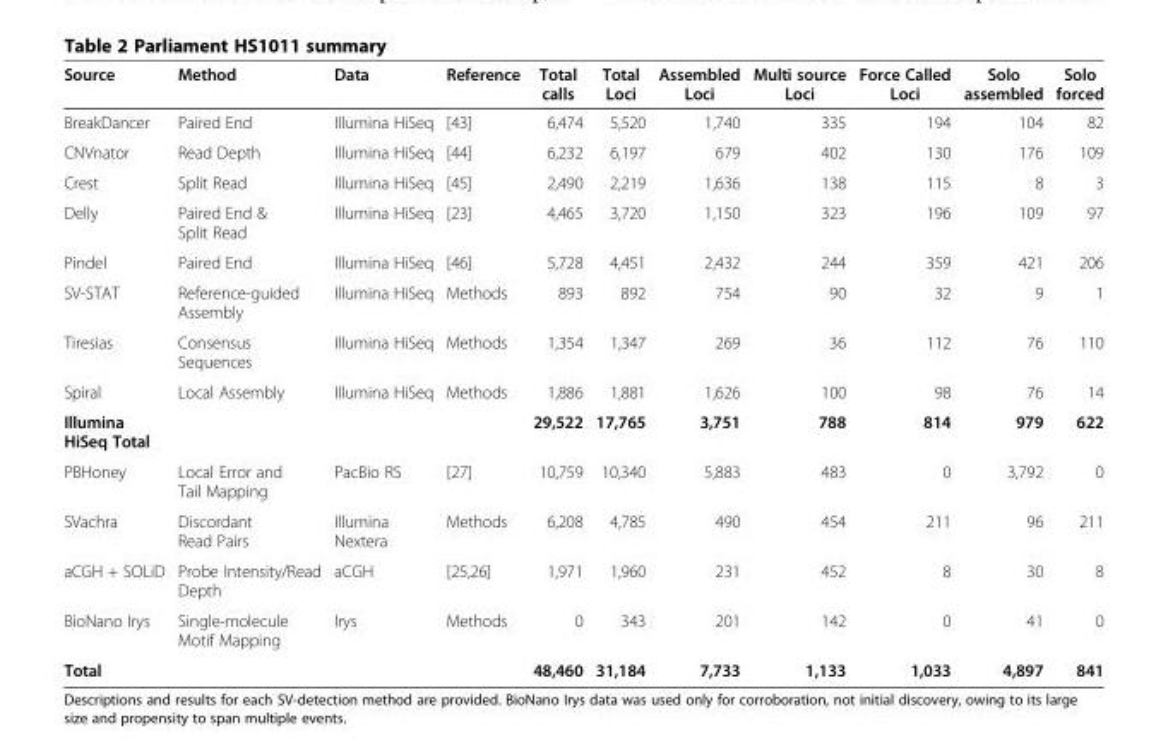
<table><thead><tr><td>Source</td><td>Method</td><td>Data</td><td>Reference</td><td>Total calls</td><td>Total Loci</td><td>Assembled Loci</td><td>Multi source Loci</td><td>Force Called Loci</td><td>Solo assembled</td><td>Solo forced</td></tr></thead><tbody><tr><td>BreakDancer</td><td>Paired End</td><td>Illumina HiSeq</td><td>[43]</td><td>6,474</td><td>5,520</td><td>1,740</td><td>335</td><td>194</td><td>104</td><td>82</td></tr><tr><td>CNVnator</td><td>Read Depth</td><td>Illumina HiSeq</td><td>[44]</td><td>6,232</td><td>6,197</td><td>679</td><td>402</td><td>130</td><td>176</td><td>109</td></tr><tr><td>Crest</td><td>Split Read</td><td>Illumina HiSeq</td><td>[45]</td><td>2,490</td><td>2,219</td><td>1,636</td><td>138</td><td>115</td><td>8</td><td>3</td></tr><tr><td>Delly</td><td>Paired End &amp; Split Read</td><td>Illumina HiSeq</td><td>[23]</td><td>4,465</td><td>3,720</td><td>1,150</td><td>323</td><td>196</td><td>109</td><td>97</td></tr><tr><td>Pindel</td><td>Paired End</td><td>Illumina HiSeq</td><td>[46]</td><td>5,728</td><td>4,451</td><td>2,432</td><td>244</td><td>359</td><td>421</td><td>206</td></tr><tr><td>SV-STAT</td><td>Reference-guided Assembly</td><td>Illumina HiSeq</td><td>Methods</td><td>893</td><td>892</td><td>754</td><td>90</td><td>32</td><td>9</td><td>1</td></tr><tr><td>Tiresias</td><td>Consensus Sequences</td><td>Illumina HiSeq</td><td>Methods</td><td>1,354</td><td>1,347</td><td>269</td><td>36</td><td>112</td><td>76</td><td>110</td></tr><tr><td>Spiral</td><td>Local Assembly</td><td>Illumina HiSeq</td><td>Methods</td><td>1,886</td><td>1,881</td><td>1,626</td><td>100</td><td>98</td><td>76</td><td>14</td></tr><tr><td>Illumina HiSeq Total</td><td></td><td></td><td></td><td>29,522</td><td>17,765</td><td>3,751</td><td>788</td><td>814</td><td>979</td><td>622</td></tr><tr><td>PBHoney</td><td>Local Error and Tail Mapping</td><td>PacBio RS</td><td>[27]</td><td>10,759</td><td>10,340</td><td>5,883</td><td>483</td><td>0</td><td>3,792</td><td>0</td></tr><tr><td>SVachra</td><td>Discordant Read Pairs</td><td>Illumina Nextera</td><td>Methods</td><td>6,208</td><td>4,785</td><td>490</td><td>454</td><td>211</td><td>96</td><td>211</td></tr><tr><td>aCGH + SOLiD</td><td>Probe Intensity/Read Depth</td><td>aCGH</td><td>[25,26]</td><td>1,971</td><td>1,960</td><td>231</td><td>452</td><td>8</td><td>30</td><td>8</td></tr><tr><td>BioNano Irys</td><td>Single-molecule Motif Mapping</td><td>Irys</td><td>Methods</td><td>0</td><td>343</td><td>201</td><td>142</td><td>0</td><td>41</td><td>0</td></tr><tr><td>Total</td><td></td><td></td><td></td><td>48,460</td><td>31,184</td><td>7,733</td><td>1,133</td><td>1,033</td><td>4,897</td><td>841</td></tr></tbody></table>